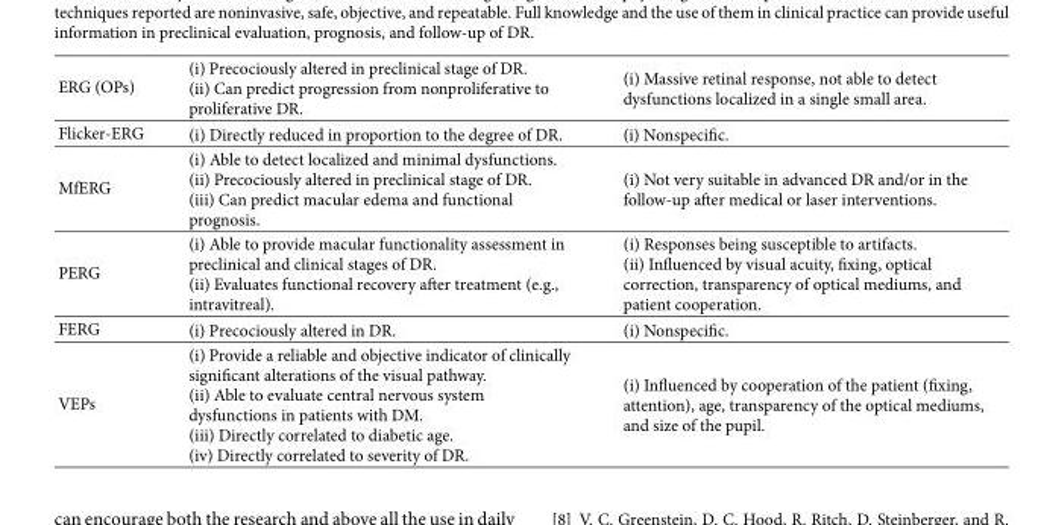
<table><tbody><tr><td>ERG (OPs)</td><td>(i) Precociously altered in preclinical stage of DR. (ii) Can predict progression from nonproliferative to proliferative DR.</td><td>(i) Massive retinal response, not able to detect dysfunctions localized in a single small area.</td></tr><tr><td>Flicker-ERG</td><td>(i) Directly reduced in proportion to the degree of DR.</td><td>(i) Nonspecific.</td></tr><tr><td>MfERG</td><td>(i) Able to detect localized and minimal dysfunctions. (ii) Precociously altered in preclinical stage of DR. (iii) Can predict macular edema and functional prognosis.</td><td>(i) Not very suitable in advanced DR and/or in the follow-up after medical or laser interventions.</td></tr><tr><td>PERG</td><td>(i) Able to provide macular functionality assessment in preclinical and clinical stages of DR. (ii) Evaluates functional recovery after treatment (e.g., intravitreal).</td><td>(i) Responses being susceptible to artifacts. (ii) Influenced by visual acuity, fixing, optical correction, transparency of optical mediums, and patient cooperation.</td></tr><tr><td>FERG</td><td>(i) Precociously altered in DR.</td><td>(i) Nonspecific.</td></tr><tr><td>VEPs</td><td>(i) Provide a reliable and objective indicator of clinically significant alterations of the visual pathway. (ii) Able to evaluate central nervous system dysfunctions in patients with DM. (iii) Directly correlated to diabetic age. (iv) Directly correlated to severity of DR.</td><td>(i) Influenced by cooperation of the patient (fixing, attention), age, transparency of the optical mediums, and size of the pupil.</td></tr></tbody></table>